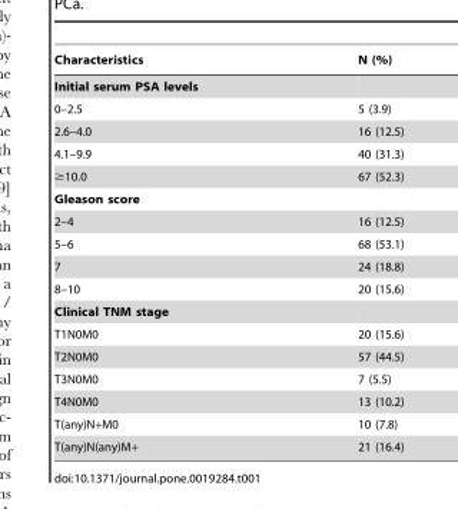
<table><thead><tr><td>Characteristics</td><td>N (%)</td></tr></thead><tbody><tr><td colspan="2">Initial serum PSA levels</td></tr><tr><td>0–2.5</td><td>5 (3.9)</td></tr><tr><td>2.6–4.0</td><td>16 (12.5)</td></tr><tr><td>4.1–9.9</td><td>40 (31.3)</td></tr><tr><td>≥10.0</td><td>67 (52.3)</td></tr><tr><td colspan="2">Gleason score</td></tr><tr><td>2–4</td><td>16 (12.5)</td></tr><tr><td>5–6</td><td>68 (53.1)</td></tr><tr><td>7</td><td>24 (18.8)</td></tr><tr><td>8–10</td><td>20 (15.6)</td></tr><tr><td colspan="2">Clinical TNM stage</td></tr><tr><td>T1N0M0</td><td>20 (15.6)</td></tr><tr><td>T2N0M0</td><td>57 (44.5)</td></tr><tr><td>T3N0M0</td><td>7 (5.5)</td></tr><tr><td>T4N0M0</td><td>13 (10.2)</td></tr><tr><td>T(any)N+M0</td><td>10 (7.8)</td></tr><tr><td>T(any)N(any)M+</td><td>21 (16.4)</td></tr></tbody></table>